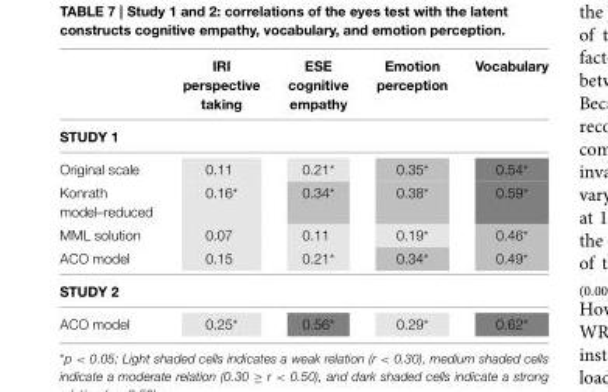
<table><thead><tr><td></td><td>IRI perspective taking</td><td>ESE cognitive empathy</td><td>Emotion perception</td><td>Vocabulary</td></tr></thead><tbody><tr><td colspan="5">STUDY 1</td></tr><tr><td>Original scale</td><td>0.11</td><td>0.21*</td><td>0.35*</td><td>0.54*</td></tr><tr><td>Konrath model–reduced</td><td>0.16*</td><td>0.34*</td><td>0.38*</td><td>0.59*</td></tr><tr><td>MML solution</td><td>0.07</td><td>0.11</td><td>0.19*</td><td>0.46*</td></tr><tr><td>ACO model</td><td>0.15</td><td>0.21*</td><td>0.34*</td><td>0.49*</td></tr><tr><td colspan="5">STUDY 2</td></tr><tr><td>ACO model</td><td>0.25*</td><td>0.56*</td><td>0.29*</td><td>0.62*</td></tr></tbody></table>